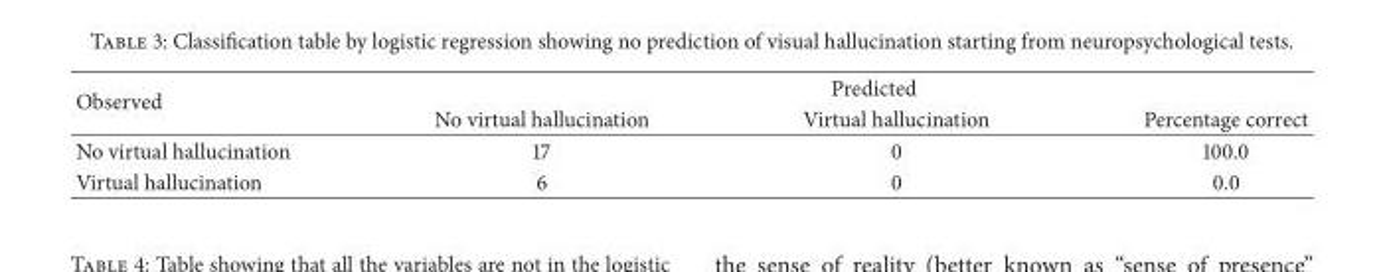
<table><thead><tr><td rowspan="2">Observed</td><td colspan="3">Predicted</td></tr><tr><td>No virtual hallucination</td><td>Virtual hallucination</td><td>Percentage correct</td></tr></thead><tbody><tr><td>No virtual hallucination</td><td>17</td><td>0</td><td>100.0</td></tr><tr><td>Virtual hallucination</td><td>6</td><td>0</td><td>0.0</td></tr></tbody></table>